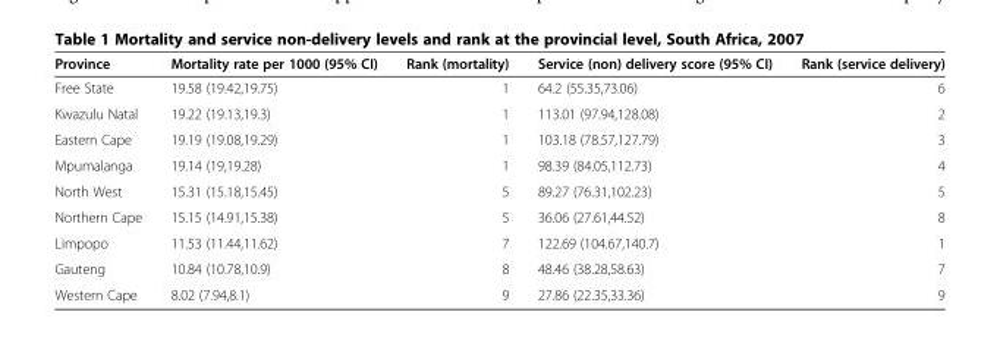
<table><thead><tr><td>Province</td><td>Mortality rate per 1000 (95% CI)</td><td>Rank (mortality)</td><td>Service (non) delivery score (95% CI)</td><td>Rank (service delivery)</td></tr></thead><tbody><tr><td>Free State</td><td>19.58 (19.42,19.75)</td><td>1</td><td>64.2 (55.35,73.06)</td><td>6</td></tr><tr><td>Kwazulu Natal</td><td>19.22 (19.13,19.3)</td><td>1</td><td>113.01 (97.94,128.08)</td><td>2</td></tr><tr><td>Eastern Cape</td><td>19.19 (19.08,19.29)</td><td>1</td><td>103.18 (78.57,127.79)</td><td>3</td></tr><tr><td>Mpumalanga</td><td>19.14 (19,19.28)</td><td>1</td><td>98.39 (84.05,112.73)</td><td>4</td></tr><tr><td>North West</td><td>15.31 (15.18,15.45)</td><td>5</td><td>89.27 (76.31,102.23)</td><td>5</td></tr><tr><td>Northern Cape</td><td>15.15 (14.91,15.38)</td><td>5</td><td>36.06 (27.61,44.52)</td><td>8</td></tr><tr><td>Limpopo</td><td>11.53 (11.44,11.62)</td><td>7</td><td>122.69 (104.67,140.7)</td><td>1</td></tr><tr><td>Gauteng</td><td>10.84 (10.78,10.9)</td><td>8</td><td>48.46 (38.28,58.63)</td><td>7</td></tr><tr><td>Western Cape</td><td>8.02 (7.94,8.1)</td><td>9</td><td>27.86 (22.35,33.36)</td><td>9</td></tr></tbody></table>